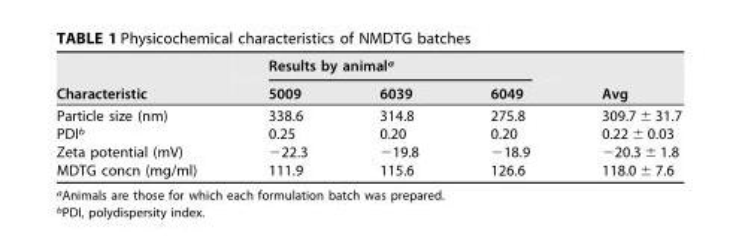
<table><thead><tr><td rowspan="2">Characteristic</td><td colspan="3">Results by animal<sup>a</sup></td><td rowspan="2">Avg</td></tr><tr><td>5009</td><td>6039</td><td>6049</td></tr></thead><tbody><tr><td>Particle size (nm)</td><td>338.6</td><td>314.8</td><td>275.8</td><td>309.7 ± 31.7</td></tr><tr><td>PDI<sup>b</sup></td><td>0.25</td><td>0.20</td><td>0.20</td><td>0.22 ± 0.03</td></tr><tr><td>Zeta potential (mV)</td><td>−22.3</td><td>−19.8</td><td>−18.9</td><td>−20.3 ± 1.8</td></tr><tr><td>MDTG concn (mg/ml)</td><td>111.9</td><td>115.6</td><td>126.6</td><td>118.0 ± 7.6</td></tr></tbody></table>